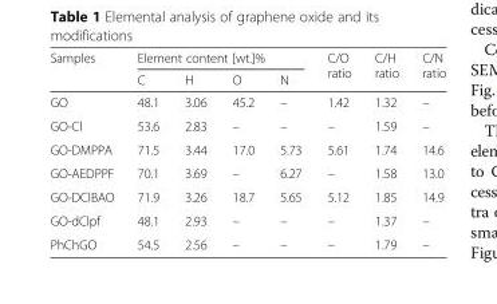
<table><thead><tr><td rowspan="2">Samples</td><td colspan="4">Element content [wt.]%</td><td rowspan="2">C/O ratio</td><td rowspan="2">C/H ratio</td><td rowspan="2">C/N ratio</td></tr><tr><td>C</td><td>H</td><td>O</td><td>N</td></tr></thead><tbody><tr><td>GO</td><td>48.1</td><td>3.06</td><td>45.2</td><td>–</td><td>1.42</td><td>1.32</td><td>–</td></tr><tr><td>GO-Cl</td><td>53.6</td><td>2.83</td><td>–</td><td>–</td><td>–</td><td>1.59</td><td>–</td></tr><tr><td>GO-DMPPA</td><td>71.5</td><td>3.44</td><td>17.0</td><td>5.73</td><td>5.61</td><td>1.74</td><td>14.6</td></tr><tr><td>GO-AEDPPF</td><td>70.1</td><td>3.69</td><td>–</td><td>6.27</td><td>–</td><td>1.58</td><td>13.0</td></tr><tr><td>GO-DClBAO</td><td>71.9</td><td>3.26</td><td>18.7</td><td>5.65</td><td>5.12</td><td>1.85</td><td>14.9</td></tr><tr><td>GO-dClpf</td><td>48.1</td><td>2.93</td><td>–</td><td>–</td><td>–</td><td>1.37</td><td>–</td></tr><tr><td>PhChGO</td><td>54.5</td><td>2.56</td><td>–</td><td>–</td><td>–</td><td>1.79</td><td>–</td></tr></tbody></table>